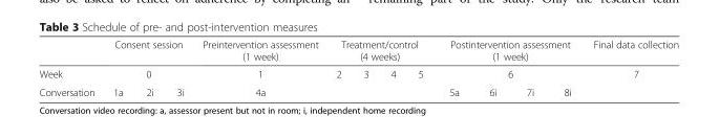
<table><thead><tr><td rowspan="3">Week Conversation</td><td rowspan="2" colspan="3">Consent session 0</td><td rowspan="3">Preintervention assessment (1 week) 1 4a</td><td colspan="4">Treatment/control (4 weeks)</td><td rowspan="2" colspan="4">Postintervention assessment (1 week) 6</td><td rowspan="3">Final data collection 7</td></tr><tr><td rowspan="2">2</td><td rowspan="2">3</td><td rowspan="2">4</td><td rowspan="2">5</td></tr><tr><td>1a</td><td>2i</td><td>3i</td><td>5a</td><td>6i</td><td>7i</td><td>8i</td></tr></thead><tbody></tbody></table>